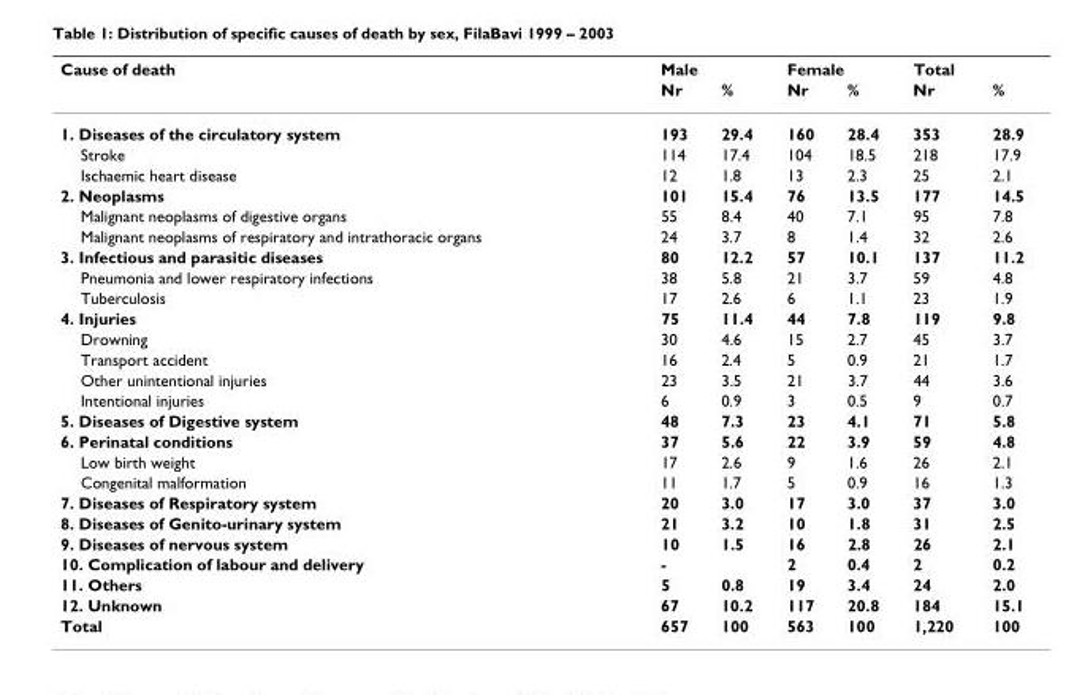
<table><thead><tr><td rowspan="2">Cause of death</td><td colspan="2">Male</td><td colspan="2">Female</td><td colspan="2">Total</td></tr><tr><td>Nr</td><td>%</td><td>Nr</td><td>%</td><td>Nr</td><td>%</td></tr></thead><tbody><tr><td>1. Diseases of the circulatory system</td><td>193</td><td>29.4</td><td>160</td><td>28.4</td><td>353</td><td>28.9</td></tr><tr><td>Stroke</td><td>114</td><td>17.4</td><td>104</td><td>18.5</td><td>218</td><td>17.9</td></tr><tr><td>Ischaemic heart disease</td><td>12</td><td>1.8</td><td>13</td><td>2.3</td><td>25</td><td>2.1</td></tr><tr><td>2. Neoplasms</td><td>101</td><td>15.4</td><td>76</td><td>13.5</td><td>177</td><td>14.5</td></tr><tr><td>Malignant neoplasms of digestive organs</td><td>55</td><td>8.4</td><td>40</td><td>7.1</td><td>95</td><td>7.8</td></tr><tr><td>Malignant neoplasms of respiratory and intrathoracic organs</td><td>24</td><td>3.7</td><td>8</td><td>1.4</td><td>32</td><td>2.6</td></tr><tr><td>3. Infectious and parasitic diseases</td><td>80</td><td>12.2</td><td>57</td><td>10.1</td><td>137</td><td>11.2</td></tr><tr><td>Pneumonia and lower respiratory infections</td><td>38</td><td>5.8</td><td>21</td><td>3.7</td><td>59</td><td>4.8</td></tr><tr><td>Tuberculosis</td><td>17</td><td>2.6</td><td>6</td><td>1.1</td><td>23</td><td>1.9</td></tr><tr><td>4. Injuries</td><td>75</td><td>11.4</td><td>44</td><td>7.8</td><td>119</td><td>9.8</td></tr><tr><td>Drowning</td><td>30</td><td>4.6</td><td>15</td><td>2.7</td><td>45</td><td>3.7</td></tr><tr><td>Transport accident</td><td>16</td><td>2.4</td><td>5</td><td>0.9</td><td>21</td><td>1.7</td></tr><tr><td>Other unintentional injuries</td><td>23</td><td>3.5</td><td>21</td><td>3.7</td><td>44</td><td>3.6</td></tr><tr><td>Intentional injuries</td><td>6</td><td>0.9</td><td>3</td><td>0.5</td><td>9</td><td>0.7</td></tr><tr><td>5. Diseases of Digestive system</td><td>48</td><td>7.3</td><td>23</td><td>4.1</td><td>71</td><td>5.8</td></tr><tr><td>6. Perinatal conditions</td><td>37</td><td>5.6</td><td>22</td><td>3.9</td><td>59</td><td>4.8</td></tr><tr><td>Low birth weight</td><td>17</td><td>2.6</td><td>9</td><td>1.6</td><td>26</td><td>2.1</td></tr><tr><td>Congenital malformation</td><td>11</td><td>1.7</td><td>5</td><td>0.9</td><td>16</td><td>1.3</td></tr><tr><td>7. Diseases of Respiratory system</td><td>20</td><td>3.0</td><td>17</td><td>3.0</td><td>37</td><td>3.0</td></tr><tr><td>8. Diseases of Genito-urinary system</td><td>21</td><td>3.2</td><td>10</td><td>1.8</td><td>31</td><td>2.5</td></tr><tr><td>9. Diseases of nervous system</td><td>10</td><td>1.5</td><td>16</td><td>2.8</td><td>26</td><td>2.1</td></tr><tr><td>10. Complication of labour and delivery</td><td>-</td><td></td><td>2</td><td>0.4</td><td>2</td><td>0.2</td></tr><tr><td>11. Others</td><td>5</td><td>0.8</td><td>19</td><td>3.4</td><td>24</td><td>2.0</td></tr><tr><td>12. Unknown</td><td>67</td><td>10.2</td><td>117</td><td>20.8</td><td>184</td><td>15.1</td></tr><tr><td>Total</td><td>657</td><td>100</td><td>563</td><td>100</td><td>1,220</td><td>100</td></tr></tbody></table>